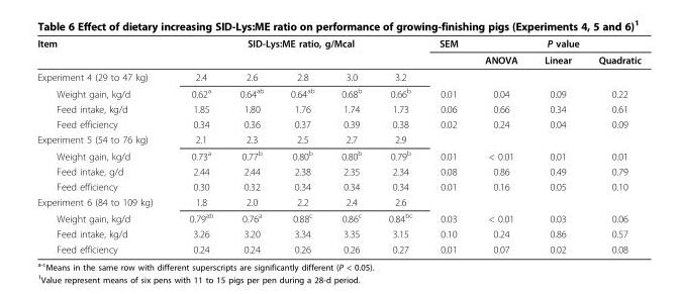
<table><thead><tr><td rowspan="2">Item</td><td colspan="5">SID-Lys:ME ratio, g/Mcal</td><td rowspan="2">SEM</td><td colspan="3">P value</td></tr><tr><td></td><td></td><td></td><td></td><td></td><td>ANOVA</td><td>Linear</td><td>Quadratic</td></tr></thead><tbody><tr><td>Experiment 4 (29 to 47 kg)</td><td>2.4</td><td>2.6</td><td>2.8</td><td>3.0</td><td>3.2</td><td></td><td></td><td></td><td></td></tr><tr><td>Weight gain, kg/d</td><td>0.62<sup>a</sup></td><td>0.64<sup>ab</sup></td><td>0.64<sup>ab</sup></td><td>0.68<sup>b</sup></td><td>0.66<sup>b</sup></td><td>0.01</td><td>0.04</td><td>0.09</td><td>0.22</td></tr><tr><td>Feed intake, kg/d</td><td>1.85</td><td>1.80</td><td>1.76</td><td>1.74</td><td>1.73</td><td>0.06</td><td>0.66</td><td>0.34</td><td>0.61</td></tr><tr><td>Feed efficiency</td><td>0.34</td><td>0.36</td><td>0.37</td><td>0.39</td><td>0.38</td><td>0.02</td><td>0.24</td><td>0.04</td><td>0.09</td></tr><tr><td>Experiment 5 (54 to 76 kg)</td><td>2.1</td><td>2.3</td><td>2.5</td><td>2.7</td><td>2.9</td><td></td><td></td><td></td><td></td></tr><tr><td>Weight gain, kg/d</td><td>0.73<sup>a</sup></td><td>0.77<sup>b</sup></td><td>0.80<sup>b</sup></td><td>0.80<sup>b</sup></td><td>0.79<sup>b</sup></td><td>0.01</td><td>&lt; 0.01</td><td>0.01</td><td>0.01</td></tr><tr><td>Feed intake, g/d</td><td>2.44</td><td>2.44</td><td>2.38</td><td>2.35</td><td>2.34</td><td>0.08</td><td>0.86</td><td>0.49</td><td>0.79</td></tr><tr><td>Feed efficiency</td><td>0.30</td><td>0.32</td><td>0.34</td><td>0.34</td><td>0.34</td><td>0.01</td><td>0.16</td><td>0.05</td><td>0.10</td></tr><tr><td>Experiment 6 (84 to 109 kg)</td><td>1.8</td><td>2.0</td><td>2.2</td><td>2.4</td><td>2.6</td><td></td><td></td><td></td><td></td></tr><tr><td>Weight gain, kg/d</td><td>0.79<sup>ab</sup></td><td>0.76<sup>a</sup></td><td>0.88<sup>c</sup></td><td>0.86<sup>c</sup></td><td>0.84<sup>bc</sup></td><td>0.03</td><td>&lt; 0.01</td><td>0.03</td><td>0.06</td></tr><tr><td>Feed intake, kg/d</td><td>3.26</td><td>3.20</td><td>3.34</td><td>3.35</td><td>3.15</td><td>0.10</td><td>0.24</td><td>0.86</td><td>0.57</td></tr><tr><td>Feed efficiency</td><td>0.24</td><td>0.24</td><td>0.26</td><td>0.26</td><td>0.27</td><td>0.01</td><td>0.07</td><td>0.02</td><td>0.08</td></tr></tbody></table>